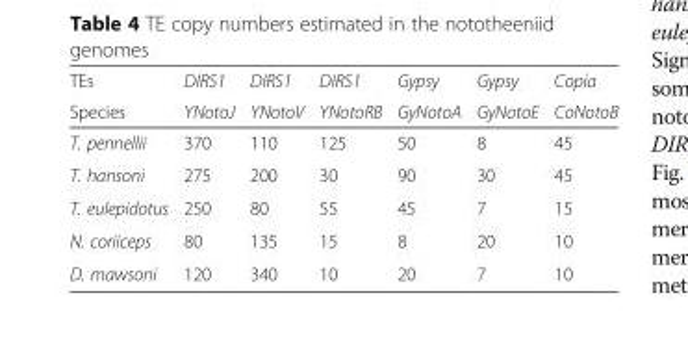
<table><thead><tr><td rowspan="2">TEs Species</td><td rowspan="2">DIRS1 YNotoJ</td><td rowspan="2">DIRS1 YNotoV</td><td rowspan="2">DIRS1 YNotoRB</td><td rowspan="2">Gypsy GyNotoA</td><td rowspan="2">Gypsy GyNotoE</td><td rowspan="2">Copia CoNotoB</td></tr><tr></tr></thead><tbody><tr><td>T. pennellii</td><td>370</td><td>110</td><td>125</td><td>50</td><td>8</td><td>45</td></tr><tr><td>T. hansoni</td><td>275</td><td>200</td><td>30</td><td>90</td><td>30</td><td>45</td></tr><tr><td>T. eulepidotus</td><td>250</td><td>80</td><td>55</td><td>45</td><td>7</td><td>15</td></tr><tr><td>N. coriiceps</td><td>80</td><td>135</td><td>15</td><td>8</td><td>20</td><td>10</td></tr><tr><td>D. mawsoni</td><td>120</td><td>340</td><td>10</td><td>20</td><td>7</td><td>10</td></tr></tbody></table>